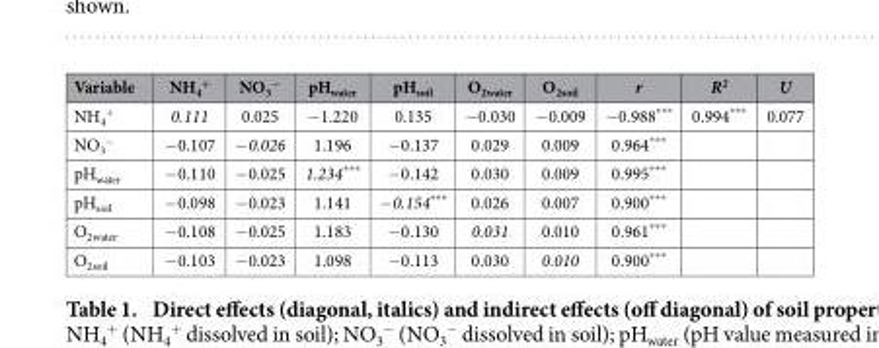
<table><thead><tr><td>Variable</td><td>NH<sub>4</sub> <sup>+</sup></td><td>NO<sub>3</sub> <sup>−</sup></td><td>pH<sub>water</sub></td><td>pH<sub>soil</sub></td><td>O<sub>2water</sub></td><td>O<sub>2soil</sub></td><td>r</td><td>R<sup>2</sup></td><td>U</td></tr></thead><tbody><tr><td>NH<sub>4</sub> <sup>+</sup></td><td>0.111</td><td>0.025</td><td>− 1.220</td><td>0.135</td><td>− 0.030</td><td>− 0.009</td><td>− 0.988***</td><td>0.994***</td><td>0.077</td></tr><tr><td>NO<sub>3</sub> <sup>−</sup></td><td>− 0.107</td><td>− 0.026</td><td>1.196</td><td>− 0.137</td><td>0.029</td><td>0.009</td><td>0.964***</td><td></td><td></td></tr><tr><td>pH<sub>water</sub></td><td>− 0.110</td><td>− 0.025</td><td>1.234***</td><td>− 0.142</td><td>0.030</td><td>0.009</td><td>0.995***</td><td></td><td></td></tr><tr><td>pH<sub>soil</sub></td><td>− 0.098</td><td>− 0.023</td><td>1.141</td><td>− 0.154***</td><td>0.026</td><td>0.007</td><td>0.900***</td><td></td><td></td></tr><tr><td>O<sub>2water</sub></td><td>− 0.108</td><td>− 0.025</td><td>1.183</td><td>− 0.130</td><td>0.031</td><td>0.010</td><td>0.961***</td><td></td><td></td></tr><tr><td>O<sub>2soil</sub></td><td>− 0.103</td><td>− 0.023</td><td>1.098</td><td>− 0.113</td><td>0.030</td><td>0.010</td><td>0.900***</td><td></td><td></td></tr></tbody></table>